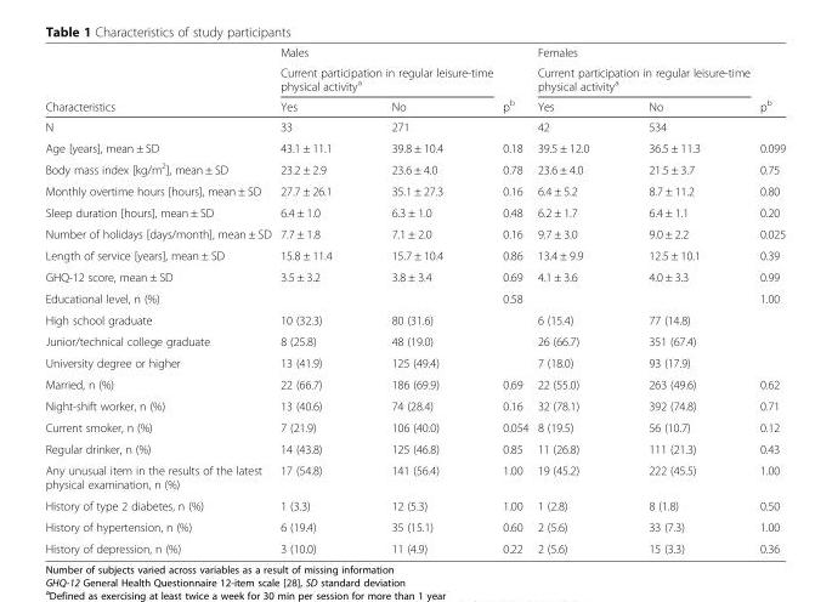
<table><thead><tr><td rowspan="3">Characteristics</td><td>Males</td><td></td><td rowspan="3">p<sup>b</sup></td><td>Females</td><td></td><td rowspan="3">p<sup>b</sup></td></tr><tr><td colspan="2">Current participation in regular leisure-time physical activity<sup>a</sup></td><td colspan="2">Current participation in regular leisure-time physical activity<sup>a</sup></td></tr><tr><td>Yes</td><td>No</td><td>Yes</td><td>No</td></tr></thead><tbody><tr><td>N</td><td>33</td><td>271</td><td></td><td>42</td><td>534</td><td></td></tr><tr><td>Age [years], mean ± SD</td><td>43.1 ± 11.1</td><td>39.8 ± 10.4</td><td>0.18</td><td>39.5 ± 12.0</td><td>36.5 ± 11.3</td><td>0.099</td></tr><tr><td>Body mass index [kg/m<sup>2</sup>], mean ± SD</td><td>23.2 ± 2.9</td><td>23.6 ± 4.0</td><td>0.78</td><td>23.6 ± 4.0</td><td>21.5 ± 3.7</td><td>0.75</td></tr><tr><td>Monthly overtime hours [hours], mean ± SD</td><td>27.7 ± 26.1</td><td>35.1 ± 27.3</td><td>0.16</td><td>6.4 ± 5.2</td><td>8.7 ± 11.2</td><td>0.80</td></tr><tr><td>Sleep duration [hours], mean ± SD</td><td>6.4 ± 1.0</td><td>6.3 ± 1.0</td><td>0.48</td><td>6.2 ± 1.7</td><td>6.4 ± 1.1</td><td>0.20</td></tr><tr><td>Number of holidays [days/month], mean ± SD</td><td>7.7 ± 1.8</td><td>7.1 ± 2.0</td><td>0.16</td><td>9.7 ± 3.0</td><td>9.0 ± 2.2</td><td>0.025</td></tr><tr><td>Length of service [years], mean ± SD</td><td>15.8 ± 11.4</td><td>15.7 ± 10.4</td><td>0.86</td><td>13.4 ± 9.9</td><td>12.5 ± 10.1</td><td>0.39</td></tr><tr><td>GHQ-12 score, mean ± SD</td><td>3.5 ± 3.2</td><td>3.8 ± 3.4</td><td>0.69</td><td>4.1 ± 3.6</td><td>4.0 ± 3.3</td><td>0.99</td></tr><tr><td>Educational level, n (%)</td><td></td><td></td><td>0.58</td><td></td><td></td><td>1.00</td></tr><tr><td>High school graduate</td><td>10 (32.3)</td><td>80 (31.6)</td><td></td><td>6 (15.4)</td><td>77 (14.8)</td><td></td></tr><tr><td>Junior/technical college graduate</td><td>8 (25.8)</td><td>48 (19.0)</td><td></td><td>26 (66.7)</td><td>351 (67.4)</td><td></td></tr><tr><td>University degree or higher</td><td>13 (41.9)</td><td>125 (49.4)</td><td></td><td>7 (18.0)</td><td>93 (17.9)</td><td></td></tr><tr><td>Married, n (%)</td><td>22 (66.7)</td><td>186 (69.9)</td><td>0.69</td><td>22 (55.0)</td><td>263 (49.6)</td><td>0.62</td></tr><tr><td>Night-shift worker, n (%)</td><td>13 (40.6)</td><td>74 (28.4)</td><td>0.16</td><td>32 (78.1)</td><td>392 (74.8)</td><td>0.71</td></tr><tr><td>Current smoker, n (%)</td><td>7 (21.9)</td><td>106 (40.0)</td><td>0.054</td><td>8 (19.5)</td><td>56 (10.7)</td><td>0.12</td></tr><tr><td>Regular drinker, n (%)</td><td>14 (43.8)</td><td>125 (46.8)</td><td>0.85</td><td>11 (26.8)</td><td>111 (21.3)</td><td>0.43</td></tr><tr><td>Any unusual item in the results of the latest physical examination, n (%)</td><td>17 (54.8)</td><td>141 (56.4)</td><td>1.00</td><td>19 (45.2)</td><td>222 (45.5)</td><td>1.00</td></tr><tr><td>History of type 2 diabetes, n (%)</td><td>1 (3.3)</td><td>12 (5.3)</td><td>1.00</td><td>1 (2.8)</td><td>8 (1.8)</td><td>0.50</td></tr><tr><td>History of hypertension, n (%)</td><td>6 (19.4)</td><td>35 (15.1)</td><td>0.60</td><td>2 (5.6)</td><td>33 (7.3)</td><td>1.00</td></tr><tr><td>History of depression, n (%)</td><td>3 (10.0)</td><td>11 (4.9)</td><td>0.22</td><td>2 (5.6)</td><td>15 (3.3)</td><td>0.36</td></tr></tbody></table>